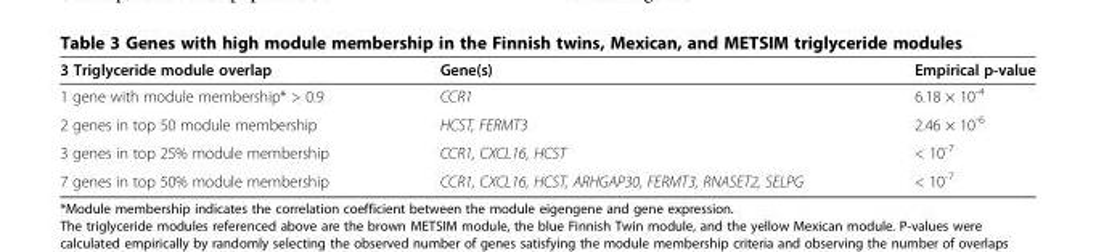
<table><thead><tr><td>3 Triglyceride module overlap</td><td>Gene(s)</td><td>Empirical p-value</td></tr></thead><tbody><tr><td>1 gene with module membership* &gt; 0.9</td><td>CCR1</td><td>6.18 × 10<sup>-4</sup></td></tr><tr><td>2 genes in top 50 module membership</td><td>HCST, FERMT3</td><td>2.46 × 10<sup>-6</sup></td></tr><tr><td>3 genes in top 25% module membership</td><td>CCR1, CXCL16, HCST</td><td>&lt; 10<sup>-7</sup></td></tr><tr><td>7 genes in top 50% module membership</td><td>CCR1, CXCL16, HCST, ARHGAP30, FERMT3, RNASET2, SELPG</td><td>&lt; 10<sup>-7</sup></td></tr></tbody></table>